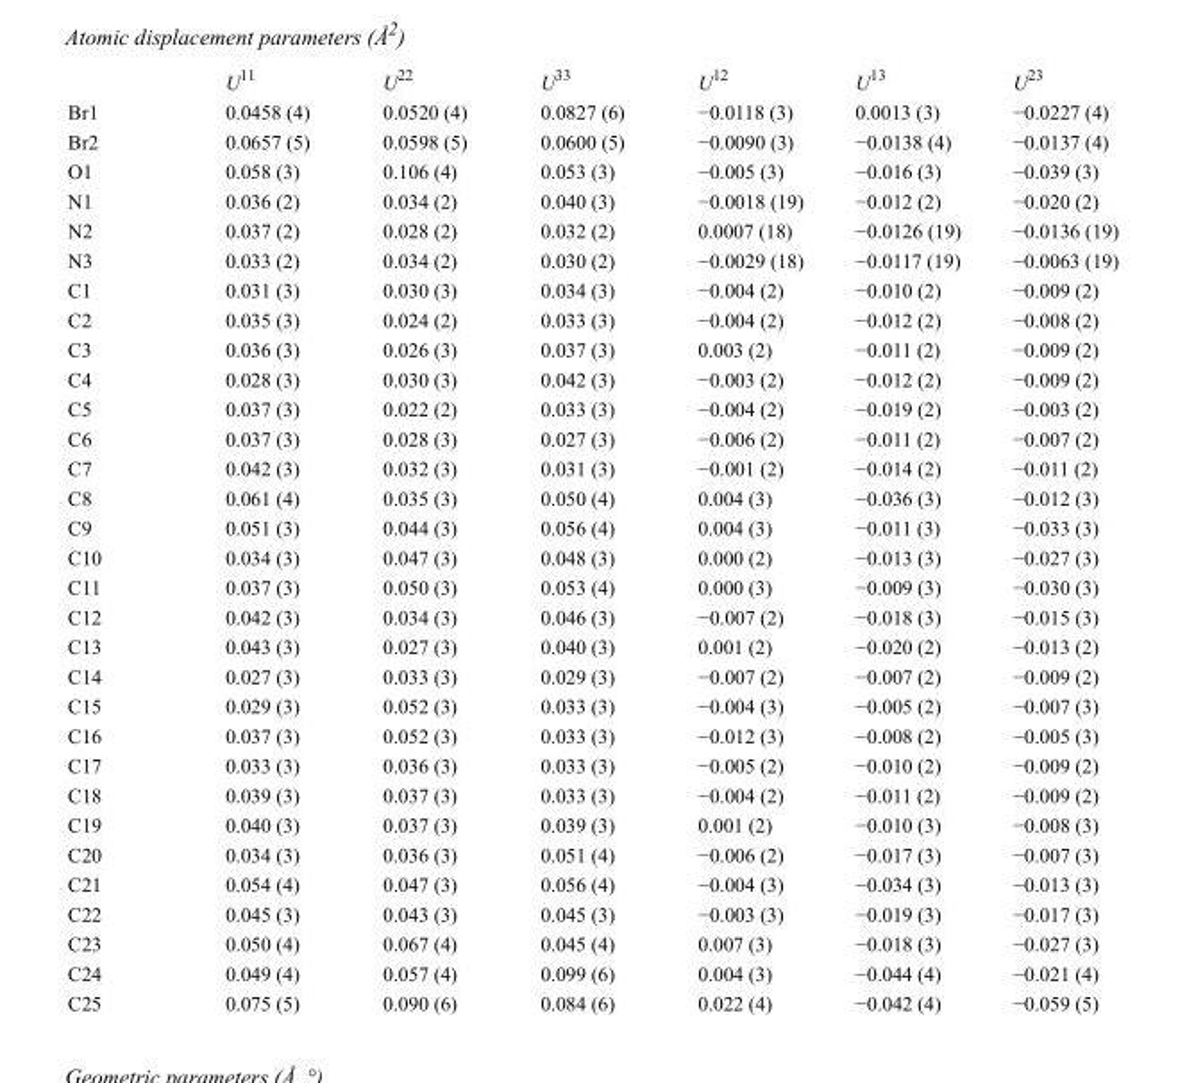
<table><thead><tr><td></td><td>U<sup>11</sup></td><td>U<sup>22</sup></td><td>U<sup>33</sup></td><td>U<sup>12</sup></td><td>U<sup>13</sup></td><td>U<sup>23</sup></td></tr></thead><tbody><tr><td>Br1</td><td>0.0458 (4)</td><td>0.0520 (4)</td><td>0.0827 (6)</td><td>−0.0118 (3)</td><td>0.0013 (3)</td><td>−0.0227 (4)</td></tr><tr><td>Br2</td><td>0.0657 (5)</td><td>0.0598 (5)</td><td>0.0600 (5)</td><td>−0.0090 (3)</td><td>−0.0138 (4)</td><td>−0.0137 (4)</td></tr><tr><td>O1</td><td>0.058 (3)</td><td>0.106 (4)</td><td>0.053 (3)</td><td>−0.005 (3)</td><td>−0.016 (3)</td><td>−0.039 (3)</td></tr><tr><td>N1</td><td>0.036 (2)</td><td>0.034 (2)</td><td>0.040 (3)</td><td>−0.0018 (19)</td><td>−0.012 (2)</td><td>−0.020 (2)</td></tr><tr><td>N2</td><td>0.037 (2)</td><td>0.028 (2)</td><td>0.032 (2)</td><td>0.0007 (18)</td><td>−0.0126 (19)</td><td>−0.0136 (19)</td></tr><tr><td>N3</td><td>0.033 (2)</td><td>0.034 (2)</td><td>0.030 (2)</td><td>−0.0029 (18)</td><td>−0.0117 (19)</td><td>−0.0063 (19)</td></tr><tr><td>C1</td><td>0.031 (3)</td><td>0.030 (3)</td><td>0.034 (3)</td><td>−0.004 (2)</td><td>−0.010 (2)</td><td>−0.009 (2)</td></tr><tr><td>C2</td><td>0.035 (3)</td><td>0.024 (2)</td><td>0.033 (3)</td><td>−0.004 (2)</td><td>−0.012 (2)</td><td>−0.008 (2)</td></tr><tr><td>C3</td><td>0.036 (3)</td><td>0.026 (3)</td><td>0.037 (3)</td><td>0.003 (2)</td><td>−0.011 (2)</td><td>−0.009 (2)</td></tr><tr><td>C4</td><td>0.028 (3)</td><td>0.030 (3)</td><td>0.042 (3)</td><td>−0.003 (2)</td><td>−0.012 (2)</td><td>−0.009 (2)</td></tr><tr><td>C5</td><td>0.037 (3)</td><td>0.022 (2)</td><td>0.033 (3)</td><td>−0.004 (2)</td><td>−0.019 (2)</td><td>−0.003 (2)</td></tr><tr><td>C6</td><td>0.037 (3)</td><td>0.028 (3)</td><td>0.027 (3)</td><td>−0.006 (2)</td><td>−0.011 (2)</td><td>−0.007 (2)</td></tr><tr><td>C7</td><td>0.042 (3)</td><td>0.032 (3)</td><td>0.031 (3)</td><td>−0.001 (2)</td><td>−0.014 (2)</td><td>−0.011 (2)</td></tr><tr><td>C8</td><td>0.061 (4)</td><td>0.035 (3)</td><td>0.050 (4)</td><td>0.004 (3)</td><td>−0.036 (3)</td><td>−0.012 (3)</td></tr><tr><td>C9</td><td>0.051 (3)</td><td>0.044 (3)</td><td>0.056 (4)</td><td>0.004 (3)</td><td>−0.011 (3)</td><td>−0.033 (3)</td></tr><tr><td>C10</td><td>0.034 (3)</td><td>0.047 (3)</td><td>0.048 (3)</td><td>0.000 (2)</td><td>−0.013 (3)</td><td>−0.027 (3)</td></tr><tr><td>C11</td><td>0.037 (3)</td><td>0.050 (3)</td><td>0.053 (4)</td><td>0.000 (3)</td><td>−0.009 (3)</td><td>−0.030 (3)</td></tr><tr><td>C12</td><td>0.042 (3)</td><td>0.034 (3)</td><td>0.046 (3)</td><td>−0.007 (2)</td><td>−0.018 (3)</td><td>−0.015 (3)</td></tr><tr><td>C13</td><td>0.043 (3)</td><td>0.027 (3)</td><td>0.040 (3)</td><td>0.001 (2)</td><td>−0.020 (2)</td><td>−0.013 (2)</td></tr><tr><td>C14</td><td>0.027 (3)</td><td>0.033 (3)</td><td>0.029 (3)</td><td>−0.007 (2)</td><td>−0.007 (2)</td><td>−0.009 (2)</td></tr><tr><td>C15</td><td>0.029 (3)</td><td>0.052 (3)</td><td>0.033 (3)</td><td>−0.004 (3)</td><td>−0.005 (2)</td><td>−0.007 (3)</td></tr><tr><td>C16</td><td>0.037 (3)</td><td>0.052 (3)</td><td>0.033 (3)</td><td>−0.012 (3)</td><td>−0.008 (2)</td><td>−0.005 (3)</td></tr><tr><td>C17</td><td>0.033 (3)</td><td>0.036 (3)</td><td>0.033 (3)</td><td>−0.005 (2)</td><td>−0.010 (2)</td><td>−0.009 (2)</td></tr><tr><td>C18</td><td>0.039 (3)</td><td>0.037 (3)</td><td>0.033 (3)</td><td>−0.004 (2)</td><td>−0.011 (2)</td><td>−0.009 (2)</td></tr><tr><td>C19</td><td>0.040 (3)</td><td>0.037 (3)</td><td>0.039 (3)</td><td>0.001 (2)</td><td>−0.010 (3)</td><td>−0.008 (3)</td></tr><tr><td>C20</td><td>0.034 (3)</td><td>0.036 (3)</td><td>0.051 (4)</td><td>−0.006 (2)</td><td>−0.017 (3)</td><td>−0.007 (3)</td></tr><tr><td>C21</td><td>0.054 (4)</td><td>0.047 (3)</td><td>0.056 (4)</td><td>−0.004 (3)</td><td>−0.034 (3)</td><td>−0.013 (3)</td></tr><tr><td>C22</td><td>0.045 (3)</td><td>0.043 (3)</td><td>0.045 (3)</td><td>−0.003 (3)</td><td>−0.019 (3)</td><td>−0.017 (3)</td></tr><tr><td>C23</td><td>0.050 (4)</td><td>0.067 (4)</td><td>0.045 (4)</td><td>0.007 (3)</td><td>−0.018 (3)</td><td>−0.027 (3)</td></tr><tr><td>C24</td><td>0.049 (4)</td><td>0.057 (4)</td><td>0.099 (6)</td><td>0.004 (3)</td><td>−0.044 (4)</td><td>−0.021 (4)</td></tr><tr><td>C25</td><td>0.075 (5)</td><td>0.090 (6)</td><td>0.084 (6)</td><td>0.022 (4)</td><td>−0.042 (4)</td><td>−0.059 (5)</td></tr></tbody></table>